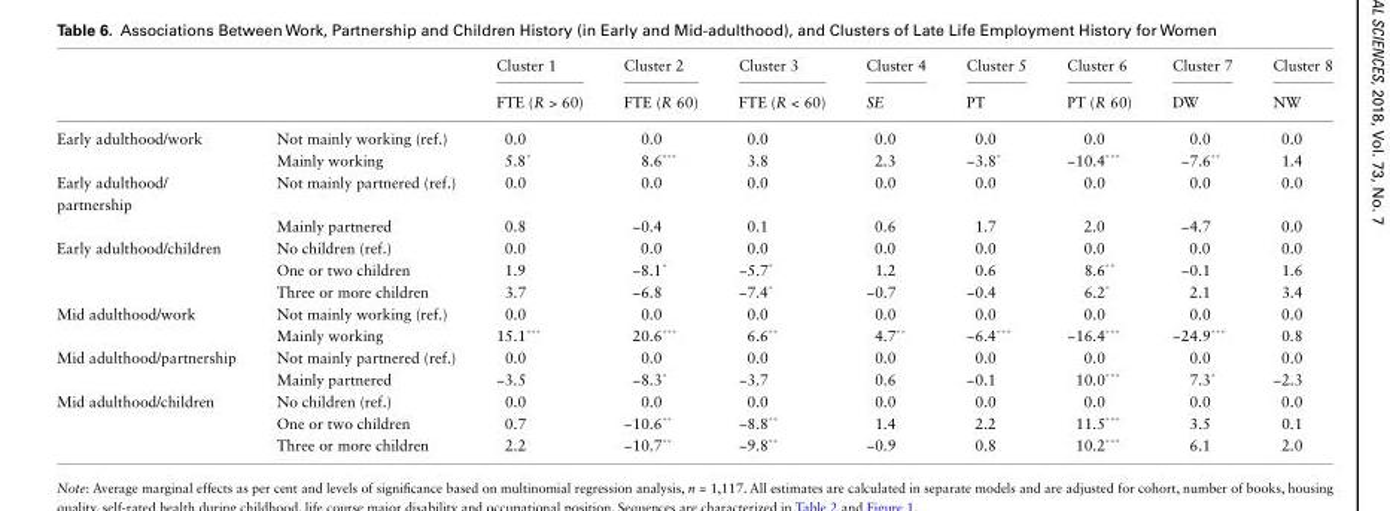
<table><thead><tr><td rowspan="2"></td><td rowspan="2"></td><td rowspan="2">Cluster 1 FTE (R &gt; 60)</td><td rowspan="2">Cluster 2 FTE (R 60)</td><td rowspan="2">Cluster 3 FTE (R &lt; 60)</td><td rowspan="2">Cluster 4 SE</td><td rowspan="2">Cluster 5 PT</td><td rowspan="2">Cluster 6 PT (R 60)</td><td rowspan="2">Cluster 7 DW</td><td rowspan="2">Cluster 8 NW</td></tr><tr></tr></thead><tbody><tr><td rowspan="2">Early adulthood/work</td><td>Not mainly working (ref.)</td><td>0.0</td><td>0.0</td><td>0.0</td><td>0.0</td><td>0.0</td><td>0.0</td><td>0.0</td><td>0.0</td></tr><tr><td>Mainly working</td><td>5.8*</td><td>8.6***</td><td>3.8</td><td>2.3</td><td>−3.8*</td><td>−10.4***</td><td>−7.6**</td><td>1.4</td></tr><tr><td rowspan="2">Early adulthood/ partnership</td><td>Not mainly partnered (ref.)</td><td>0.0</td><td>0.0</td><td>0.0</td><td>0.0</td><td>0.0</td><td>0.0</td><td>0.0</td><td>0.0</td></tr><tr><td>Mainly partnered</td><td>0.8</td><td>−0.4</td><td>0.1</td><td>0.6</td><td>1.7</td><td>2.0</td><td>−4.7</td><td>0.0</td></tr><tr><td rowspan="3">Early adulthood/children</td><td>No children (ref.)</td><td>0.0</td><td>0.0</td><td>0.0</td><td>0.0</td><td>0.0</td><td>0.0</td><td>0.0</td><td>0.0</td></tr><tr><td>One or two children</td><td>1.9</td><td>−8.1*</td><td>−5.7*</td><td>1.2</td><td>0.6</td><td>8.6**</td><td>−0.1</td><td>1.6</td></tr><tr><td>Three or more children</td><td>3.7</td><td>−6.8</td><td>−7.4*</td><td>−0.7</td><td>−0.4</td><td>6.2*</td><td>2.1</td><td>3.4</td></tr><tr><td rowspan="2">Mid adulthood/work</td><td>Not mainly working (ref.)</td><td>0.0</td><td>0.0</td><td>0.0</td><td>0.0</td><td>0.0</td><td>0.0</td><td>0.0</td><td>0.0</td></tr><tr><td>Mainly working</td><td>15.1***</td><td>20.6***</td><td>6.6**</td><td>4.7**</td><td>−6.4***</td><td>−16.4***</td><td>−24.9***</td><td>0.8</td></tr><tr><td rowspan="2">Mid adulthood/partnership</td><td>Not mainly partnered (ref.)</td><td>0.0</td><td>0.0</td><td>0.0</td><td>0.0</td><td>0.0</td><td>0.0</td><td>0.0</td><td>0.0</td></tr><tr><td>Mainly partnered</td><td>−3.5</td><td>−8.3*</td><td>−3.7</td><td>0.6</td><td>−0.1</td><td>10.0***</td><td>7.3*</td><td>−2.3</td></tr><tr><td rowspan="3">Mid adulthood/children</td><td>No children (ref.)</td><td>0.0</td><td>0.0</td><td>0.0</td><td>0.0</td><td>0.0</td><td>0.0</td><td>0.0</td><td>0.0</td></tr><tr><td>One or two children</td><td>0.7</td><td>−10.6**</td><td>−8.8**</td><td>1.4</td><td>2.2</td><td>11.5***</td><td>3.5</td><td>0.1</td></tr><tr><td>Three or more children</td><td>2.2</td><td>−10.7**</td><td>−9.8**</td><td>−0.9</td><td>0.8</td><td>10.2***</td><td>6.1</td><td>2.0</td></tr></tbody></table>